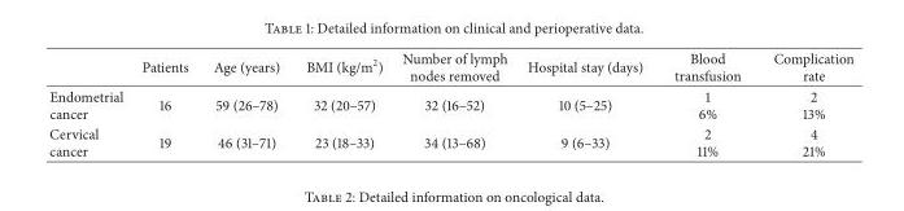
<table><thead><tr><td></td><td>Patients</td><td>Age (years)</td><td>BMI (kg/m<sup>2</sup>)</td><td>Number of lymph nodes removed</td><td>Hospital stay (days)</td><td>Blood transfusion</td><td>Complication rate</td></tr></thead><tbody><tr><td>Endometrial cancer</td><td>16</td><td>59 (26–78)</td><td>32 (20–57)</td><td>32 (16–52)</td><td>10 (5–25)</td><td>1 6%</td><td>2 13%</td></tr><tr><td>Cervical cancer</td><td>19</td><td>46 (31–71)</td><td>23 (18–33)</td><td>34 (13–68)</td><td>9 (6–33)</td><td>2 11%</td><td>4 21%</td></tr></tbody></table>